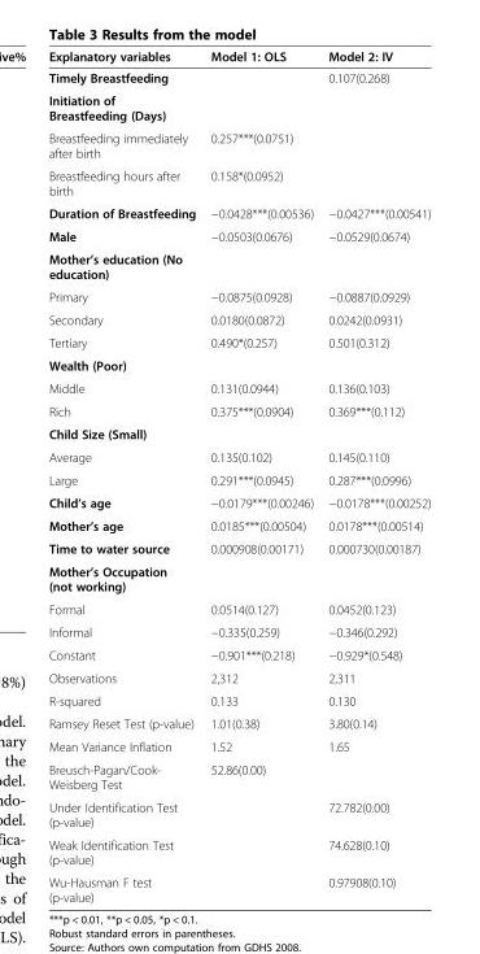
<table><thead><tr><td>Explanatory variables</td><td>Model 1: OLS</td><td>Model 2: IV</td></tr></thead><tbody><tr><td>Timely Breastfeeding</td><td></td><td>0.107(0.268)</td></tr><tr><td colspan="3">Initiation of Breastfeeding (Days)</td></tr><tr><td>Breastfeeding immediately after birth</td><td>0.257***(0.0751)</td><td></td></tr><tr><td>Breastfeeding hours after birth</td><td>0.158*(0.0952)</td><td></td></tr><tr><td>Duration of Breastfeeding</td><td>−0.0428***(0.00536)</td><td>−0.0427***(0.00541)</td></tr><tr><td>Male</td><td>−0.0503(0.0676)</td><td>−0.0529(0.0674)</td></tr><tr><td colspan="3">Mother’s education (No education)</td></tr><tr><td>Primary</td><td>−0.0875(0.0928)</td><td>−0.0887(0.0929)</td></tr><tr><td>Secondary</td><td>0.0180(0.0872)</td><td>0.0242(0.0931)</td></tr><tr><td>Tertiary</td><td>0.490*(0.257)</td><td>0.501(0.312)</td></tr><tr><td colspan="3">Wealth (Poor)</td></tr><tr><td>Middle</td><td>0.131(0.0944)</td><td>0.136(0.103)</td></tr><tr><td>Rich</td><td>0.375***(0.0904)</td><td>0.369***(0.112)</td></tr><tr><td colspan="3">Child Size (Small)</td></tr><tr><td>Average</td><td>0.135(0.102)</td><td>0.145(0.110)</td></tr><tr><td>Large</td><td>0.291***(0.0945)</td><td>0.287***(0.0996)</td></tr><tr><td>Child’s age</td><td>−0.0179***(0.00246)</td><td>−0.0178***(0.00252)</td></tr><tr><td>Mother’s age</td><td>0.0185***(0.00504)</td><td>0.0178***(0.00514)</td></tr><tr><td>Time to water source</td><td>0.000908(0.00171)</td><td>0.000730(0.00187)</td></tr><tr><td colspan="3">Mother’s Occupation (not working)</td></tr><tr><td>Formal</td><td>0.0514(0.127)</td><td>0.0452(0.123)</td></tr><tr><td>Informal</td><td>−0.335(0.259)</td><td>−0.346(0.292)</td></tr><tr><td>Constant</td><td>−0.901***(0.218)</td><td>−0.929*(0.548)</td></tr><tr><td>Observations</td><td>2,312</td><td>2,311</td></tr><tr><td>R-squared</td><td>0.133</td><td>0.130</td></tr><tr><td>Ramsey Reset Test (p-value)</td><td>1.01(0.38)</td><td>3.80(0.14)</td></tr><tr><td>Mean Variance Inflation</td><td>1.52</td><td>1.65</td></tr><tr><td>Breusch-Pagan/Cook- Weisberg Test</td><td>52.86(0.00)</td><td></td></tr><tr><td>Under Identification Test (p-value)</td><td></td><td>72.782(0.00)</td></tr><tr><td>Weak Identification Test (p-value)</td><td></td><td>74.628(0.10)</td></tr><tr><td>Wu-Hausman F test (p-value)</td><td></td><td>0.97908(0.10)</td></tr></tbody></table>